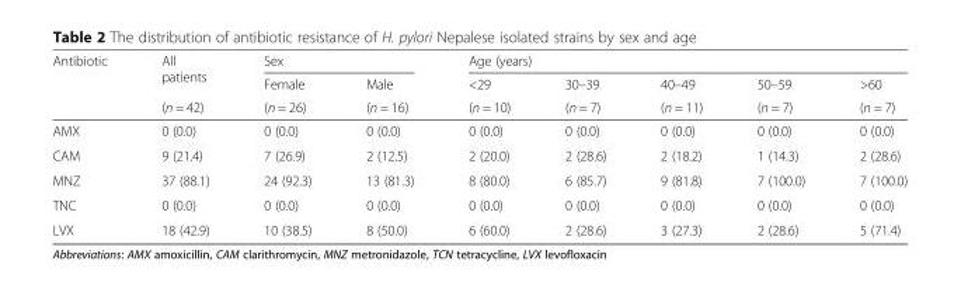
<table><thead><tr><td rowspan="3">Antibiotic</td><td rowspan="3">All patients (n = 42)</td><td colspan="2">Sex</td><td colspan="5">Age (years)</td></tr><tr><td rowspan="2">Female (n = 26)</td><td rowspan="2">Male (n = 16)</td><td rowspan="2">&lt;29 (n = 10)</td><td rowspan="2">30–39 (n = 7)</td><td rowspan="2">40–49 (n = 11)</td><td rowspan="2">50–59 (n = 7)</td><td rowspan="2">&gt;60 (n = 7)</td></tr><tr></tr></thead><tbody><tr><td>AMX</td><td>0 (0.0)</td><td>0 (0.0)</td><td>0 (0.0)</td><td>0 (0.0)</td><td>0 (0.0)</td><td>0 (0.0)</td><td>0 (0.0)</td><td>0 (0.0)</td></tr><tr><td>CAM</td><td>9 (21.4)</td><td>7 (26.9)</td><td>2 (12.5)</td><td>2 (20.0)</td><td>2 (28.6)</td><td>2 (18.2)</td><td>1 (14.3)</td><td>2 (28.6)</td></tr><tr><td>MNZ</td><td>37 (88.1)</td><td>24 (92.3)</td><td>13 (81.3)</td><td>8 (80.0)</td><td>6 (85.7)</td><td>9 (81.8)</td><td>7 (100.0)</td><td>7 (100.0)</td></tr><tr><td>TNC</td><td>0 (0.0)</td><td>0 (0.0)</td><td>0 (0.0)</td><td>0 (0.0)</td><td>0 (0.0)</td><td>0 (0.0)</td><td>0 (0.0)</td><td>0 (0.0)</td></tr><tr><td>LVX</td><td>18 (42.9)</td><td>10 (38.5)</td><td>8 (50.0)</td><td>6 (60.0)</td><td>2 (28.6)</td><td>3 (27.3)</td><td>2 (28.6)</td><td>5 (71.4)</td></tr></tbody></table>